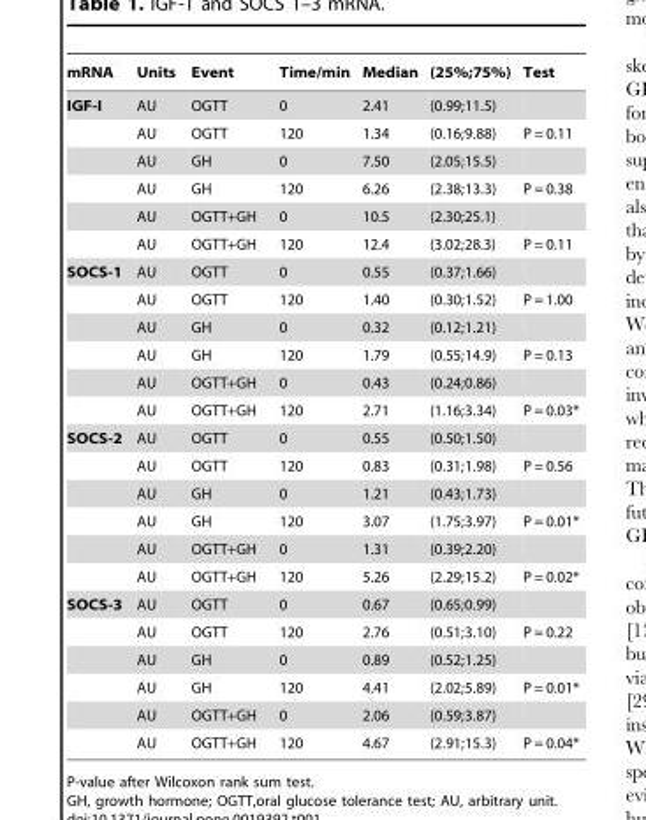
<table><thead><tr><td>mRNA</td><td>Units</td><td>Event</td><td>Time/min</td><td>Median</td><td>(25%;75%)</td><td>Test</td></tr></thead><tbody><tr><td rowspan="6">IGF-I</td><td>AU</td><td>OGTT</td><td>0</td><td>2.41</td><td>(0.99;11.5)</td><td></td></tr><tr><td>AU</td><td>OGTT</td><td>120</td><td>1.34</td><td>(0.16;9.88)</td><td>P = 0.11</td></tr><tr><td>AU</td><td>GH</td><td>0</td><td>7.50</td><td>(2.05;15.5)</td><td></td></tr><tr><td>AU</td><td>GH</td><td>120</td><td>6.26</td><td>(2.38;13.3)</td><td>P = 0.38</td></tr><tr><td>AU</td><td>OGTT+GH</td><td>0</td><td>10.5</td><td>(2.30;25.1)</td><td></td></tr><tr><td>AU</td><td>OGTT+GH</td><td>120</td><td>12.4</td><td>(3.02;28.3)</td><td>P = 0.11</td></tr><tr><td rowspan="6">SOCS-1</td><td>AU</td><td>OGTT</td><td>0</td><td>0.55</td><td>(0.37;1.66)</td><td></td></tr><tr><td>AU</td><td>OGTT</td><td>120</td><td>1.40</td><td>(0.30;1.52)</td><td>P = 1.00</td></tr><tr><td>AU</td><td>GH</td><td>0</td><td>0.32</td><td>(0.12;1.21)</td><td></td></tr><tr><td>AU</td><td>GH</td><td>120</td><td>1.79</td><td>(0.55;14.9)</td><td>P = 0.13</td></tr><tr><td>AU</td><td>OGTT+GH</td><td>0</td><td>0.43</td><td>(0.24;0.86)</td><td></td></tr><tr><td>AU</td><td>OGTT+GH</td><td>120</td><td>2.71</td><td>(1.16;3.34)</td><td>P = 0.03*</td></tr><tr><td rowspan="6">SOCS-2</td><td>AU</td><td>OGTT</td><td>0</td><td>0.55</td><td>(0.50;1.50)</td><td></td></tr><tr><td>AU</td><td>OGTT</td><td>120</td><td>0.83</td><td>(0.31;1.98)</td><td>P = 0.56</td></tr><tr><td>AU</td><td>GH</td><td>0</td><td>1.21</td><td>(0.43;1.73)</td><td></td></tr><tr><td>AU</td><td>GH</td><td>120</td><td>3.07</td><td>(1.75;3.97)</td><td>P = 0.01*</td></tr><tr><td>AU</td><td>OGTT+GH</td><td>0</td><td>1.31</td><td>(0.39;2.20)</td><td></td></tr><tr><td>AU</td><td>OGTT+GH</td><td>120</td><td>5.26</td><td>(2.29;15.2)</td><td>P = 0.02*</td></tr><tr><td rowspan="6">SOCS-3</td><td>AU</td><td>OGTT</td><td>0</td><td>0.67</td><td>(0.65;0.99)</td><td></td></tr><tr><td>AU</td><td>OGTT</td><td>120</td><td>2.76</td><td>(0.51;3.10)</td><td>P = 0.22</td></tr><tr><td>AU</td><td>GH</td><td>0</td><td>0.89</td><td>(0.52;1.25)</td><td></td></tr><tr><td>AU</td><td>GH</td><td>120</td><td>4.41</td><td>(2.02;5.89)</td><td>P = 0.01*</td></tr><tr><td>AU</td><td>OGTT+GH</td><td>0</td><td>2.06</td><td>(0.59;3.87)</td><td></td></tr><tr><td>AU</td><td>OGTT+GH</td><td>120</td><td>4.67</td><td>(2.91;15.3)</td><td>P = 0.04*</td></tr></tbody></table>